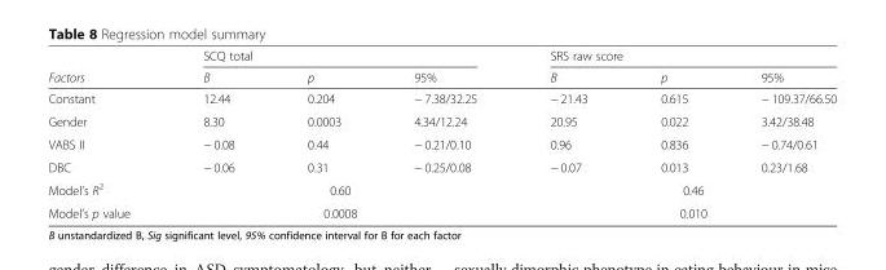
<table><thead><tr><td rowspan="2">Factors</td><td colspan="3">SCQ total</td><td colspan="3">SRS raw score</td></tr><tr><td>B</td><td>p</td><td>95%</td><td>B</td><td>p</td><td>95%</td></tr></thead><tbody><tr><td>Constant</td><td>12.44</td><td>0.204</td><td>− 7.38/32.25</td><td>− 21.43</td><td>0.615</td><td>− 109.37/66.50</td></tr><tr><td>Gender</td><td>8.30</td><td>0.0003</td><td>4.34/12.24</td><td>20.95</td><td>0.022</td><td>3.42/38.48</td></tr><tr><td>VABS II</td><td>− 0.08</td><td>0.44</td><td>− 0.21/0.10</td><td>0.96</td><td>0.836</td><td>− 0.74/0.61</td></tr><tr><td>DBC</td><td>− 0.06</td><td>0.31</td><td>− 0.25/0.08</td><td>− 0.07</td><td>0.013</td><td>0.23/1.68</td></tr><tr><td>Model’s R<sup>2</sup></td><td colspan="3">0.60</td><td colspan="3">0.46</td></tr><tr><td>Model’s p value</td><td colspan="3">0.0008</td><td colspan="3">0.010</td></tr></tbody></table>